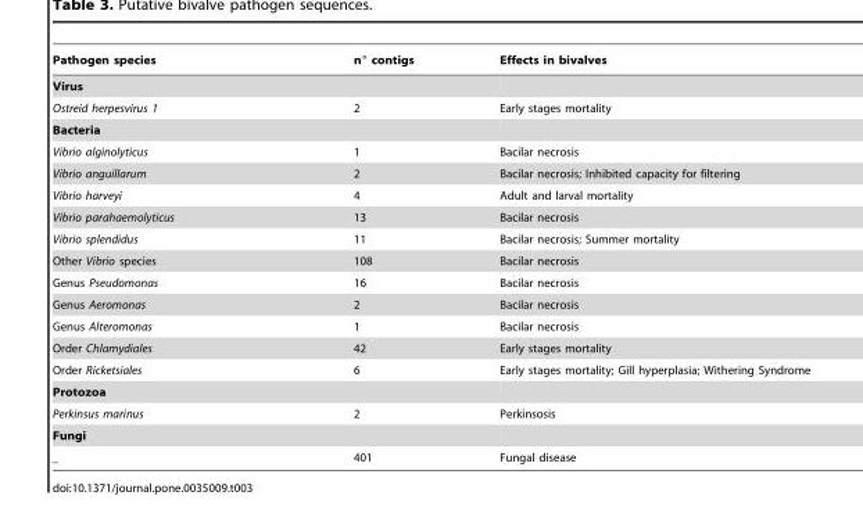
<table><thead><tr><td>Pathogen species</td><td>n° contigs</td><td>Effects in bivalves</td></tr></thead><tbody><tr><td colspan="3">Virus</td></tr><tr><td>Ostreid herpesvirus 1</td><td>2</td><td>Early stages mortality</td></tr><tr><td colspan="3">Bacteria</td></tr><tr><td>Vibrio alginolyticus</td><td>1</td><td>Bacilar necrosis</td></tr><tr><td>Vibrio anguillarum</td><td>2</td><td>Bacilar necrosis; Inhibited capacity for filtering</td></tr><tr><td>Vibrio harveyi</td><td>4</td><td>Adult and larval mortality</td></tr><tr><td>Vibrio parahaemolyticus</td><td>13</td><td>Bacilar necrosis</td></tr><tr><td>Vibrio splendidus</td><td>11</td><td>Bacilar necrosis; Summer mortality</td></tr><tr><td>Other Vibrio species</td><td>108</td><td>Bacilar necrosis</td></tr><tr><td>Genus Pseudomonas</td><td>16</td><td>Bacilar necrosis</td></tr><tr><td>Genus Aeromonas</td><td>2</td><td>Bacilar necrosis</td></tr><tr><td>Genus Alteromonas</td><td>1</td><td>Bacilar necrosis</td></tr><tr><td>Order Chlamydiales</td><td>42</td><td>Early stages mortality</td></tr><tr><td>Order Ricketsiales</td><td>6</td><td>Early stages mortality; Gill hyperplasia; Withering Syndrome</td></tr><tr><td colspan="3">Protozoa</td></tr><tr><td>Perkinsus marinus</td><td>2</td><td>Perkinsosis</td></tr><tr><td colspan="3">Fungi</td></tr><tr><td>_</td><td>401</td><td>Fungal disease</td></tr></tbody></table>